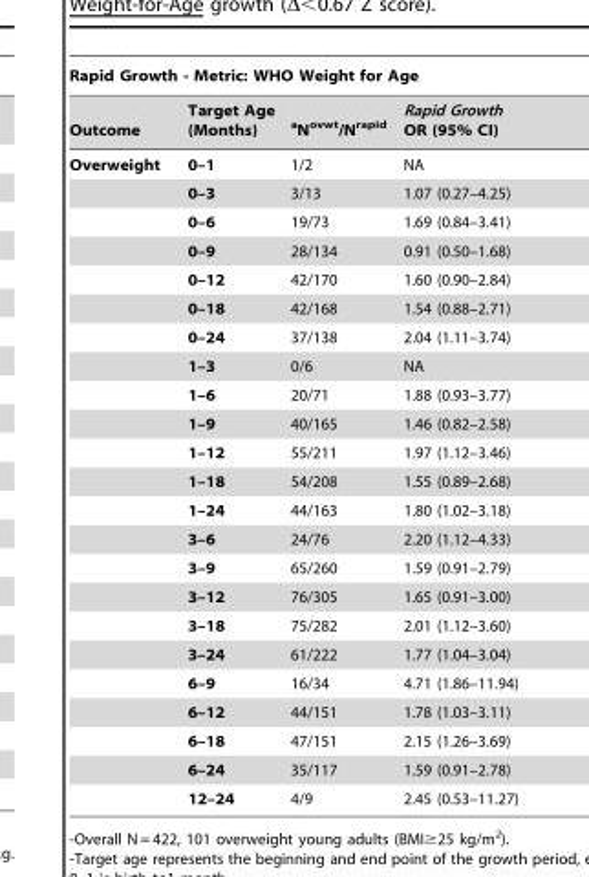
<table><thead><tr><td colspan="4">Rapid Growth - Metric: WHO Weight for Age</td></tr><tr><td>Outcome</td><td>Target Age (Months)</td><td><sup>a</sup>N<sup>ovwt</sup>/N<sup>rapid</sup></td><td>Rapid Growth OR (95% CI)</td></tr></thead><tbody><tr><td rowspan="23">Overweight</td><td>0–1</td><td>1/2</td><td>NA</td></tr><tr><td>0–3</td><td>3/13</td><td>1.07 (0.27–4.25)</td></tr><tr><td>0–6</td><td>19/73</td><td>1.69 (0.84–3.41)</td></tr><tr><td>0–9</td><td>28/134</td><td>0.91 (0.50–1.68)</td></tr><tr><td>0–12</td><td>42/170</td><td>1.60 (0.90–2.84)</td></tr><tr><td>0–18</td><td>42/168</td><td>1.54 (0.88–2.71)</td></tr><tr><td>0–24</td><td>37/138</td><td>2.04 (1.11–3.74)</td></tr><tr><td>1–3</td><td>0/6</td><td>NA</td></tr><tr><td>1–6</td><td>20/71</td><td>1.88 (0.93–3.77)</td></tr><tr><td>1–9</td><td>40/165</td><td>1.46 (0.82–2.58)</td></tr><tr><td>1–12</td><td>55/211</td><td>1.97 (1.12–3.46)</td></tr><tr><td>1–18</td><td>54/208</td><td>1.55 (0.89–2.68)</td></tr><tr><td>1–24</td><td>44/163</td><td>1.80 (1.02–3.18)</td></tr><tr><td>3–6</td><td>24/76</td><td>2.20 (1.12–4.33)</td></tr><tr><td>3–9</td><td>65/260</td><td>1.59 (0.91–2.79)</td></tr><tr><td>3–12</td><td>76/305</td><td>1.65 (0.91–3.00)</td></tr><tr><td>3–18</td><td>75/282</td><td>2.01 (1.12–3.60)</td></tr><tr><td>3–24</td><td>61/222</td><td>1.77 (1.04–3.04)</td></tr><tr><td>6–9</td><td>16/34</td><td>4.71 (1.86–11.94)</td></tr><tr><td>6–12</td><td>44/151</td><td>1.78 (1.03–3.11)</td></tr><tr><td>6–18</td><td>47/151</td><td>2.15 (1.26–3.69)</td></tr><tr><td>6–24</td><td>35/117</td><td>1.59 (0.91–2.78)</td></tr><tr><td>12–24</td><td>4/9</td><td>2.45 (0.53–11.27)</td></tr></tbody></table>